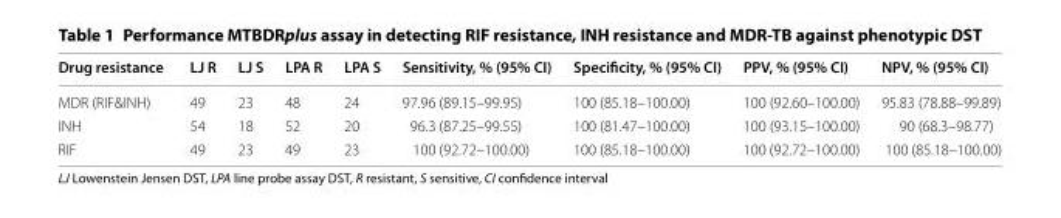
<table><thead><tr><td>Drug resistance</td><td>LJ R</td><td>LJ S</td><td>LPA R</td><td>LPA S</td><td>Sensitivity, % (95% CI)</td><td>Specificity, % (95% CI)</td><td>PPV, % (95% CI)</td><td>NPV, % (95% CI)</td></tr></thead><tbody><tr><td>MDR (RIF&amp;INH)</td><td>49</td><td>23</td><td>48</td><td>24</td><td>97.96 (89.15–99.95)</td><td>100 (85.18–100.00)</td><td>100 (92.60–100.00)</td><td>95.83 (78.88–99.89)</td></tr><tr><td>INH</td><td>54</td><td>18</td><td>52</td><td>20</td><td>96.3 (87.25–99.55)</td><td>100 (81.47–100.00)</td><td>100 (93.15–100.00)</td><td>90 (68.3–98.77)</td></tr><tr><td>RIF</td><td>49</td><td>23</td><td>49</td><td>23</td><td>100 (92.72–100.00)</td><td>100 (85.18–100.00)</td><td>100 (92.72–100.00)</td><td>100 (85.18–100.00)</td></tr></tbody></table>